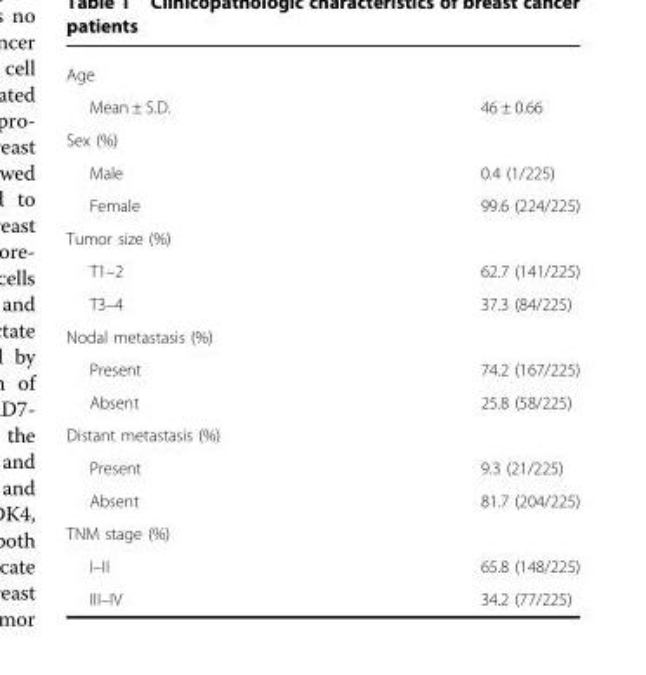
<table><tbody><tr><td colspan="2">Age</td></tr><tr><td>Mean ± S.D.</td><td>46 ± 0.66</td></tr><tr><td colspan="2">Sex (%)</td></tr><tr><td>Male</td><td>0.4 (1/225)</td></tr><tr><td>Female</td><td>99.6 (224/225)</td></tr><tr><td colspan="2">Tumor size (%)</td></tr><tr><td>T1–2</td><td>62.7 (141/225)</td></tr><tr><td>T3–4</td><td>37.3 (84/225)</td></tr><tr><td colspan="2">Nodal metastasis (%)</td></tr><tr><td>Present</td><td>74.2 (167/225)</td></tr><tr><td>Absent</td><td>25.8 (58/225)</td></tr><tr><td colspan="2">Distant metastasis (%)</td></tr><tr><td>Present</td><td>9.3 (21/225)</td></tr><tr><td>Absent</td><td>81.7 (204/225)</td></tr><tr><td colspan="2">TNM stage (%)</td></tr><tr><td>I–II</td><td>65.8 (148/225)</td></tr><tr><td>III–IV</td><td>34.2 (77/225)</td></tr></tbody></table>